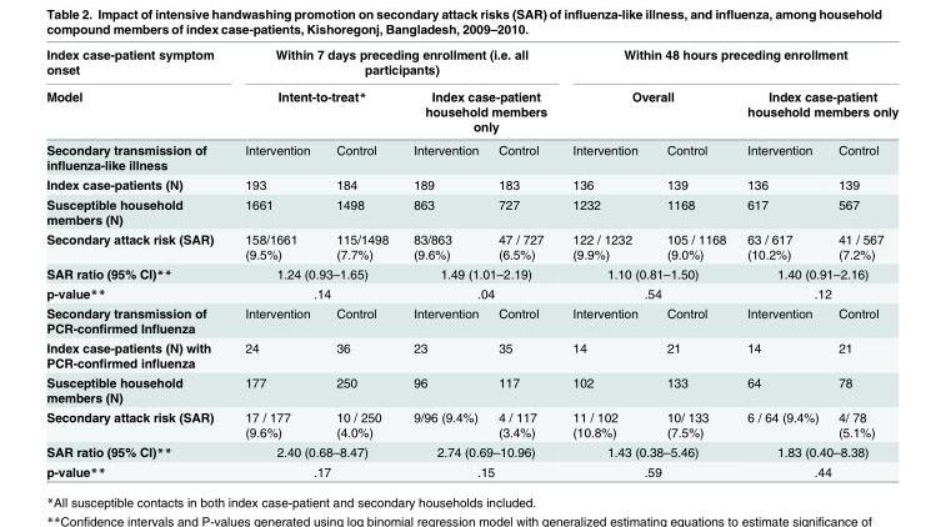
<table><thead><tr><td rowspan="3">Index case-patient symptom onset Model Secondary transmission of influenza-like illness</td><td colspan="4">Within 7 days preceding enrollment (i.e. all participants)</td><td colspan="4">Within 48 hours preceding enrollment</td></tr><tr><td colspan="2">Intent-to-treat*</td><td colspan="2">Index case-patient household members only</td><td colspan="2">Overall</td><td colspan="2">Index case-patient household members only</td></tr><tr><td>Intervention</td><td>Control</td><td>Intervention</td><td>Control</td><td>Intervention</td><td>Control</td><td>Intervention</td><td>Control</td></tr></thead><tbody><tr><td>Index case-patients (N)</td><td>193</td><td>184</td><td>189</td><td>183</td><td>136</td><td>139</td><td>136</td><td>139</td></tr><tr><td>Susceptible household members (N)</td><td>1661</td><td>1498</td><td>863</td><td>727</td><td>1232</td><td>1168</td><td>617</td><td>567</td></tr><tr><td>Secondary attack risk (SAR)</td><td>158/1661 (9.5%)</td><td>115/1498 (7.7%)</td><td>83/863 (9.6%)</td><td>47 / 727 (6.5%)</td><td>122 / 1232 (9.9%)</td><td>105 / 1168 (9.0%)</td><td>63 / 617 (10.2%)</td><td>41 / 567 (7.2%)</td></tr><tr><td>SAR ratio (95% CI)**</td><td colspan="2">1.24 (0.93–1.65)</td><td colspan="2">1.49 (1.01–2.19)</td><td colspan="2">1.10 (0.81–1.50)</td><td colspan="2">1.40 (0.91–2.16)</td></tr><tr><td>p-value**</td><td colspan="2">.14</td><td colspan="2">.04</td><td colspan="2">.54</td><td colspan="2">.12</td></tr><tr><td>Secondary transmission of PCR-confirmed Influenza</td><td>Intervention</td><td>Control</td><td>Intervention</td><td>Control</td><td>Intervention</td><td>Control</td><td>Intervention</td><td>Control</td></tr><tr><td>Index case-patients (N) with PCR-confirmed influenza</td><td>24</td><td>36</td><td>23</td><td>35</td><td>14</td><td>21</td><td>14</td><td>21</td></tr><tr><td>Susceptible household members (N)</td><td>177</td><td>250</td><td>96</td><td>117</td><td>102</td><td>133</td><td>64</td><td>78</td></tr><tr><td>Secondary attack risk (SAR)</td><td>17 / 177 (9.6%)</td><td>10 / 250 (4.0%)</td><td>9/96 (9.4%)</td><td>4 / 117 (3.4%)</td><td>11 / 102 (10.8%)</td><td>10/ 133 (7.5%)</td><td>6 / 64 (9.4%)</td><td>4/ 78 (5.1%)</td></tr><tr><td>SAR ratio (95% CI)**</td><td colspan="2">2.40 (0.68–8.47)</td><td colspan="2">2.74 (0.69–10.96)</td><td colspan="2">1.43 (0.38–5.46)</td><td colspan="2">1.83 (0.40–8.38)</td></tr><tr><td>p-value**</td><td colspan="2">.17</td><td colspan="2">.15</td><td colspan="2">.59</td><td colspan="2">.44</td></tr></tbody></table>